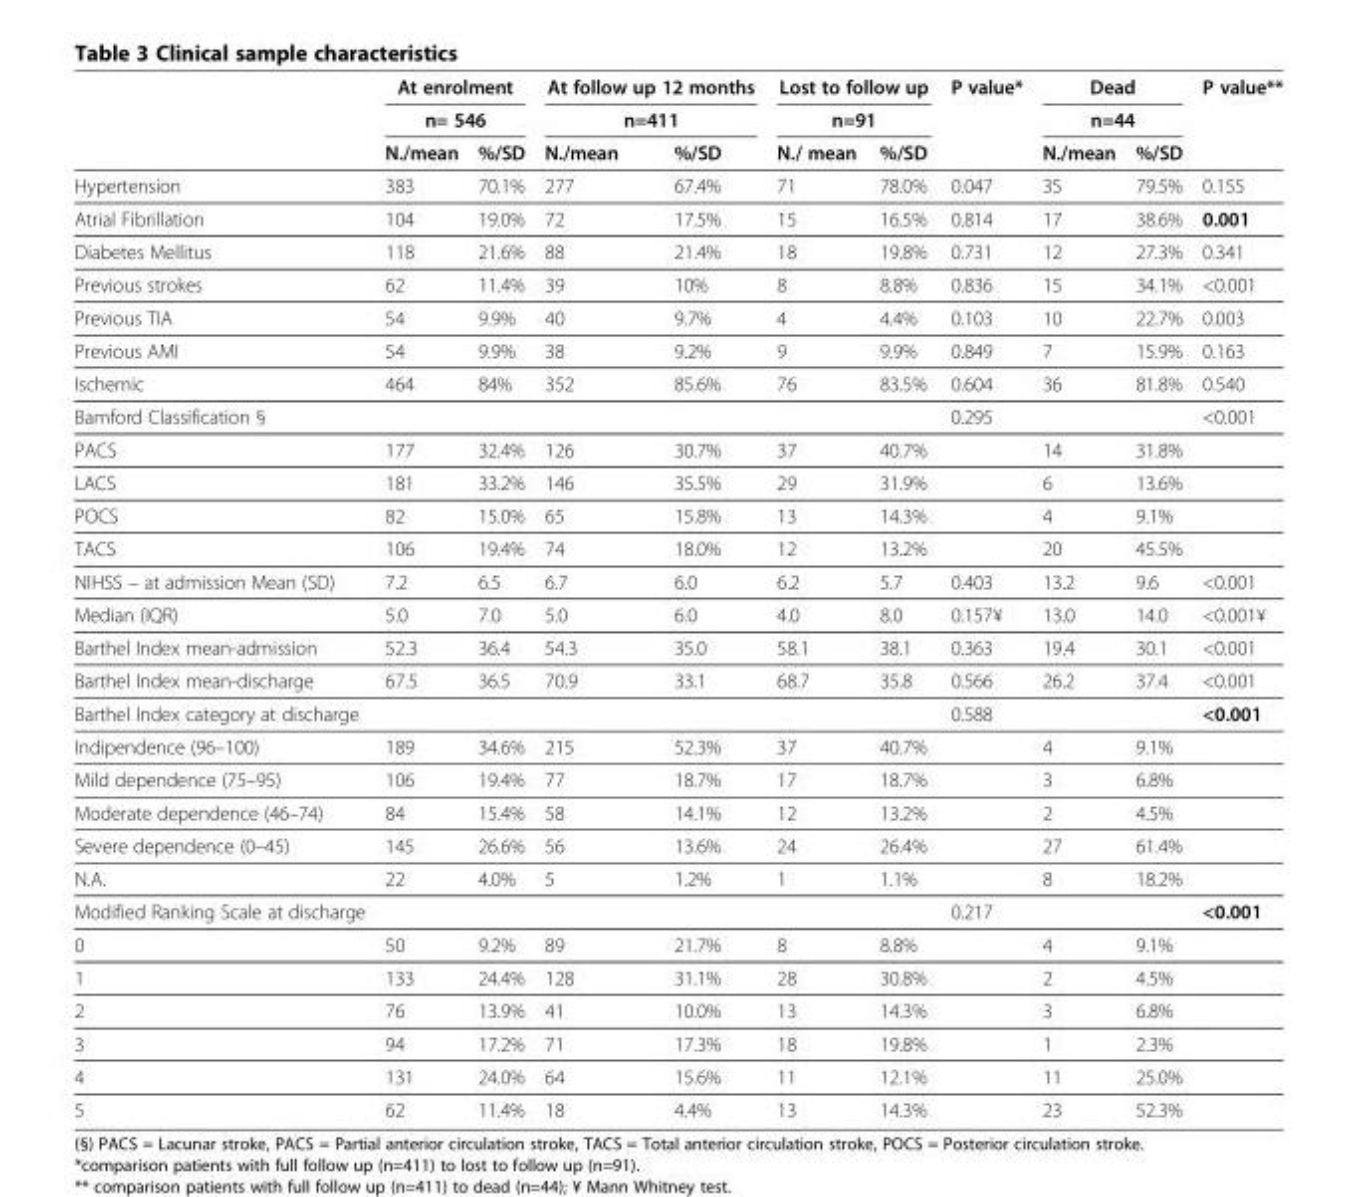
<table><thead><tr><td rowspan="3"></td><td rowspan="2" colspan="2">At enrolment n= 546</td><td rowspan="2" colspan="2">At follow up 12 months n=411</td><td rowspan="2" colspan="2">Lost to follow up n=91</td><td rowspan="3">P value*</td><td rowspan="2" colspan="2">Dead n=44</td><td rowspan="3">P value**</td></tr><tr></tr><tr><td>N./mean</td><td>%/SD</td><td>N./mean</td><td>%/SD</td><td>N./ mean</td><td>%/SD</td><td>N./mean</td><td>%/SD</td></tr></thead><tbody><tr><td>Hypertension</td><td>383</td><td>70.1%</td><td>277</td><td>67.4%</td><td>71</td><td>78.0%</td><td>0.047</td><td>35</td><td>79.5%</td><td>0.155</td></tr><tr><td>Atrial Fibrillation</td><td>104</td><td>19.0%</td><td>72</td><td>17.5%</td><td>15</td><td>16.5%</td><td>0.814</td><td>17</td><td>38.6%</td><td>0.001</td></tr><tr><td>Diabetes Mellitus</td><td>118</td><td>21.6%</td><td>88</td><td>21.4%</td><td>18</td><td>19.8%</td><td>0.731</td><td>12</td><td>27.3%</td><td>0.341</td></tr><tr><td>Previous strokes</td><td>62</td><td>11.4%</td><td>39</td><td>10%</td><td>8</td><td>8.8%</td><td>0.836</td><td>15</td><td>34.1%</td><td>&lt;0.001</td></tr><tr><td>Previous TIA</td><td>54</td><td>9.9%</td><td>40</td><td>9.7%</td><td>4</td><td>4.4%</td><td>0.103</td><td>10</td><td>22.7%</td><td>0.003</td></tr><tr><td>Previous AMI</td><td>54</td><td>9.9%</td><td>38</td><td>9.2%</td><td>9</td><td>9.9%</td><td>0.849</td><td>7</td><td>15.9%</td><td>0.163</td></tr><tr><td>Ischemic</td><td>464</td><td>84%</td><td>352</td><td>85.6%</td><td>76</td><td>83.5%</td><td>0.604</td><td>36</td><td>81.8%</td><td>0.540</td></tr><tr><td>Bamford Classification §</td><td></td><td></td><td></td><td></td><td></td><td></td><td>0.295</td><td></td><td></td><td>&lt;0.001</td></tr><tr><td>PACS</td><td>177</td><td>32.4%</td><td>126</td><td>30.7%</td><td>37</td><td>40.7%</td><td></td><td>14</td><td>31.8%</td><td></td></tr><tr><td>LACS</td><td>181</td><td>33.2%</td><td>146</td><td>35.5%</td><td>29</td><td>31.9%</td><td></td><td>6</td><td>13.6%</td><td></td></tr><tr><td>POCS</td><td>82</td><td>15.0%</td><td>65</td><td>15.8%</td><td>13</td><td>14.3%</td><td></td><td>4</td><td>9.1%</td><td></td></tr><tr><td>TACS</td><td>106</td><td>19.4%</td><td>74</td><td>18.0%</td><td>12</td><td>13.2%</td><td></td><td>20</td><td>45.5%</td><td></td></tr><tr><td>NIHSS – at admission Mean (SD)</td><td>7.2</td><td>6.5</td><td>6.7</td><td>6.0</td><td>6.2</td><td>5.7</td><td>0.403</td><td>13.2</td><td>9.6</td><td>&lt;0.001</td></tr><tr><td>Median (IQR)</td><td>5.0</td><td>7.0</td><td>5.0</td><td>6.0</td><td>4.0</td><td>8.0</td><td>0.157¥</td><td>13.0</td><td>14.0</td><td>&lt;0.001¥</td></tr><tr><td>Barthel Index mean-admission</td><td>52.3</td><td>36.4</td><td>54.3</td><td>35.0</td><td>58.1</td><td>38.1</td><td>0.363</td><td>19.4</td><td>30.1</td><td>&lt;0.001</td></tr><tr><td>Barthel Index mean-discharge</td><td>67.5</td><td>36.5</td><td>70.9</td><td>33.1</td><td>68.7</td><td>35.8</td><td>0.566</td><td>26.2</td><td>37.4</td><td>&lt;0.001</td></tr><tr><td>Barthel Index category at discharge</td><td></td><td></td><td></td><td></td><td></td><td></td><td>0.588</td><td></td><td></td><td>&lt;0.001</td></tr><tr><td>Indipendence (96–100)</td><td>189</td><td>34.6%</td><td>215</td><td>52.3%</td><td>37</td><td>40.7%</td><td></td><td>4</td><td>9.1%</td><td></td></tr><tr><td>Mild dependence (75–95)</td><td>106</td><td>19.4%</td><td>77</td><td>18.7%</td><td>17</td><td>18.7%</td><td></td><td>3</td><td>6.8%</td><td></td></tr><tr><td>Moderate dependence (46–74)</td><td>84</td><td>15.4%</td><td>58</td><td>14.1%</td><td>12</td><td>13.2%</td><td></td><td>2</td><td>4.5%</td><td></td></tr><tr><td>Severe dependence (0–45)</td><td>145</td><td>26.6%</td><td>56</td><td>13.6%</td><td>24</td><td>26.4%</td><td></td><td>27</td><td>61.4%</td><td></td></tr><tr><td>N.A.</td><td>22</td><td>4.0%</td><td>5</td><td>1.2%</td><td>1</td><td>1.1%</td><td></td><td>8</td><td>18.2%</td><td></td></tr><tr><td>Modified Ranking Scale at discharge</td><td></td><td></td><td></td><td></td><td></td><td></td><td>0.217</td><td></td><td></td><td>&lt;0.001</td></tr><tr><td>0</td><td>50</td><td>9.2%</td><td>89</td><td>21.7%</td><td>8</td><td>8.8%</td><td></td><td>4</td><td>9.1%</td><td></td></tr><tr><td>1</td><td>133</td><td>24.4%</td><td>128</td><td>31.1%</td><td>28</td><td>30.8%</td><td></td><td>2</td><td>4.5%</td><td></td></tr><tr><td>2</td><td>76</td><td>13.9%</td><td>41</td><td>10.0%</td><td>13</td><td>14.3%</td><td></td><td>3</td><td>6.8%</td><td></td></tr><tr><td>3</td><td>94</td><td>17.2%</td><td>71</td><td>17.3%</td><td>18</td><td>19.8%</td><td></td><td>1</td><td>2.3%</td><td></td></tr><tr><td>4</td><td>131</td><td>24.0%</td><td>64</td><td>15.6%</td><td>11</td><td>12.1%</td><td></td><td>11</td><td>25.0%</td><td></td></tr><tr><td>5</td><td>62</td><td>11.4%</td><td>18</td><td>4.4%</td><td>13</td><td>14.3%</td><td></td><td>23</td><td>52.3%</td><td></td></tr></tbody></table>